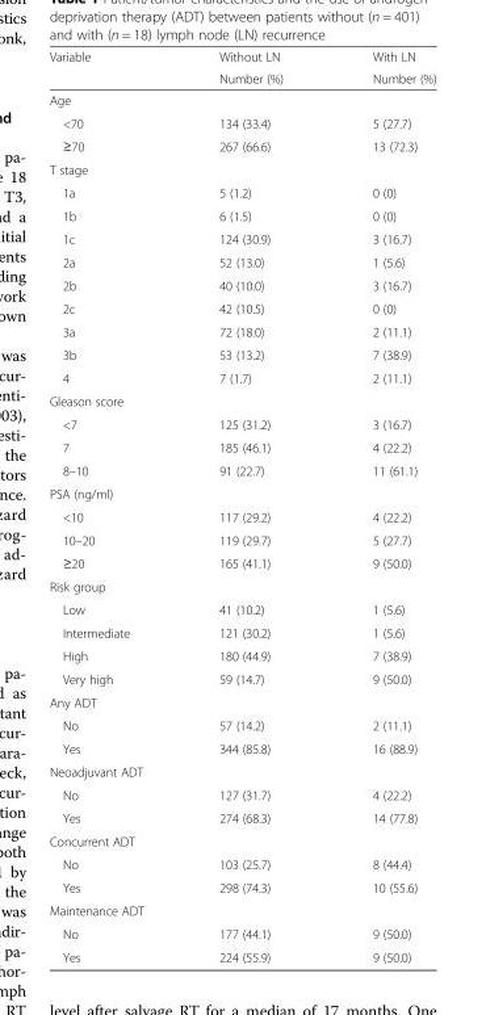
<table><thead><tr><td rowspan="2">Variable</td><td rowspan="2">Without LN Number (%)</td><td rowspan="2">With LN Number (%)</td></tr><tr></tr></thead><tbody><tr><td colspan="3">Age</td></tr><tr><td>&lt;70</td><td>134 (33.4)</td><td>5 (27.7)</td></tr><tr><td>≥70</td><td>267 (66.6)</td><td>13 (72.3)</td></tr><tr><td colspan="3">T stage</td></tr><tr><td>1a</td><td>5 (1.2)</td><td>0 (0)</td></tr><tr><td>1b</td><td>6 (1.5)</td><td>0 (0)</td></tr><tr><td>1c</td><td>124 (30.9)</td><td>3 (16.7)</td></tr><tr><td>2a</td><td>52 (13.0)</td><td>1 (5.6)</td></tr><tr><td>2b</td><td>40 (10.0)</td><td>3 (16.7)</td></tr><tr><td>2c</td><td>42 (10.5)</td><td>0 (0)</td></tr><tr><td>3a</td><td>72 (18.0)</td><td>2 (11.1)</td></tr><tr><td>3b</td><td>53 (13.2)</td><td>7 (38.9)</td></tr><tr><td>4</td><td>7 (1.7)</td><td>2 (11.1)</td></tr><tr><td colspan="3">Gleason score</td></tr><tr><td>&lt;7</td><td>125 (31.2)</td><td>3 (16.7)</td></tr><tr><td>7</td><td>185 (46.1)</td><td>4 (22.2)</td></tr><tr><td>8–10</td><td>91 (22.7)</td><td>11 (61.1)</td></tr><tr><td colspan="3">PSA (ng/ml)</td></tr><tr><td>&lt;10</td><td>117 (29.2)</td><td>4 (22.2)</td></tr><tr><td>10–20</td><td>119 (29.7)</td><td>5 (27.7)</td></tr><tr><td>≥20</td><td>165 (41.1)</td><td>9 (50.0)</td></tr><tr><td colspan="3">Risk group</td></tr><tr><td>Low</td><td>41 (10.2)</td><td>1 (5.6)</td></tr><tr><td>Intermediate</td><td>121 (30.2)</td><td>1 (5.6)</td></tr><tr><td>High</td><td>180 (44.9)</td><td>7 (38.9)</td></tr><tr><td>Very high</td><td>59 (14.7)</td><td>9 (50.0)</td></tr><tr><td colspan="3">Any ADT</td></tr><tr><td>No</td><td>57 (14.2)</td><td>2 (11.1)</td></tr><tr><td>Yes</td><td>344 (85.8)</td><td>16 (88.9)</td></tr><tr><td colspan="3">Neoadjuvant ADT</td></tr><tr><td>No</td><td>127 (31.7)</td><td>4 (22.2)</td></tr><tr><td>Yes</td><td>274 (68.3)</td><td>14 (77.8)</td></tr><tr><td colspan="3">Concurrent ADT</td></tr><tr><td>No</td><td>103 (25.7)</td><td>8 (44.4)</td></tr><tr><td>Yes</td><td>298 (74.3)</td><td>10 (55.6)</td></tr><tr><td colspan="3">Maintenance ADT</td></tr><tr><td>No</td><td>177 (44.1)</td><td>9 (50.0)</td></tr><tr><td>Yes</td><td>224 (55.9)</td><td>9 (50.0)</td></tr></tbody></table>